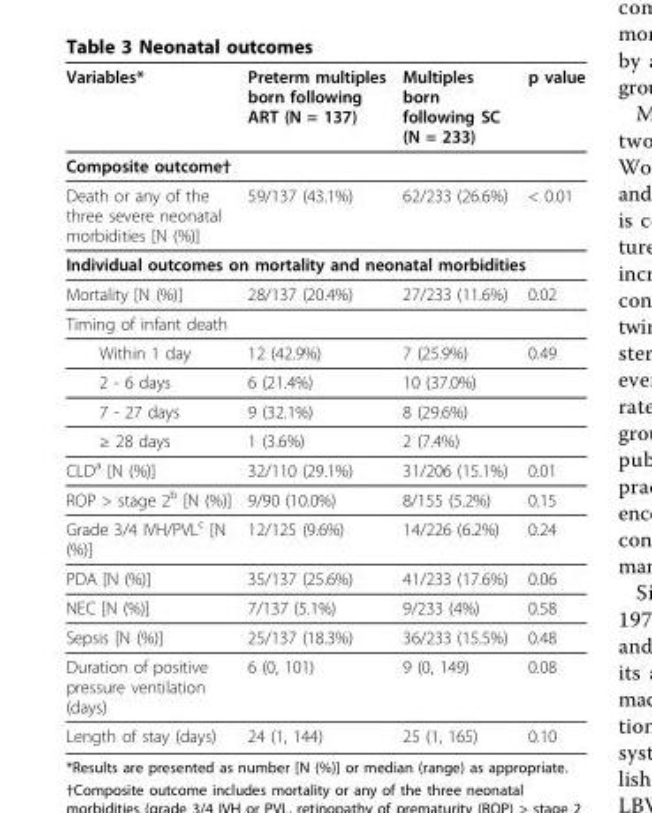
<table><thead><tr><td>Variables*</td><td>Preterm multiples born following ART (N = 137)</td><td>Multiples born following SC (N = 233)</td><td>p value</td></tr></thead><tbody><tr><td colspan="4">Composite outcome†</td></tr><tr><td>Death or any of the three severe neonatal morbidities [N (%)]</td><td>59/137 (43.1%)</td><td>62/233 (26.6%)</td><td>&lt; 0.01</td></tr><tr><td colspan="4">Individual outcomes on mortality and neonatal morbidities</td></tr><tr><td>Mortality [N (%)]</td><td>28/137 (20.4%)</td><td>27/233 (11.6%)</td><td>0.02</td></tr><tr><td colspan="4">Timing of infant death</td></tr><tr><td>Within 1 day</td><td>12 (42.9%)</td><td>7 (25.9%)</td><td>0.49</td></tr><tr><td>2 - 6 days</td><td>6 (21.4%)</td><td>10 (37.0%)</td><td></td></tr><tr><td>7 - 27 days</td><td>9 (32.1%)</td><td>8 (29.6%)</td><td></td></tr><tr><td>≥ 28 days</td><td>1 (3.6%)</td><td>2 (7.4%)</td><td></td></tr><tr><td>CLD<sup>a</sup> [N (%)]</td><td>32/110 (29.1%)</td><td>31/206 (15.1%)</td><td>0.01</td></tr><tr><td>ROP &gt; stage 2<sup>b</sup> [N (%)]</td><td>9/90 (10.0%)</td><td>8/155 (5.2%)</td><td>0.15</td></tr><tr><td>Grade 3/4 IVH/PVL<sup>c</sup> [N (%)]</td><td>12/125 (9.6%)</td><td>14/226 (6.2%)</td><td>0.24</td></tr><tr><td>PDA [N (%)]</td><td>35/137 (25.6%)</td><td>41/233 (17.6%)</td><td>0.06</td></tr><tr><td>NEC [N (%)]</td><td>7/137 (5.1%)</td><td>9/233 (4%)</td><td>0.58</td></tr><tr><td>Sepsis [N (%)]</td><td>25/137 (18.3%)</td><td>36/233 (15.5%)</td><td>0.48</td></tr><tr><td>Duration of positive pressure ventilation (days)</td><td>6 (0, 101)</td><td>9 (0, 149)</td><td>0.08</td></tr><tr><td>Length of stay (days)</td><td>24 (1, 144)</td><td>25 (1, 165)</td><td>0.10</td></tr></tbody></table>